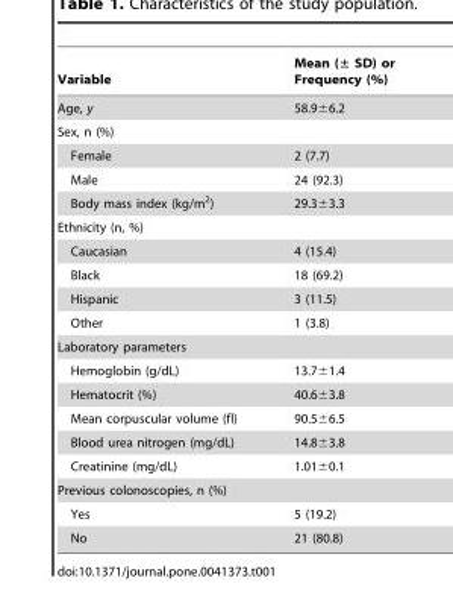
<table><thead><tr><td>Variable</td><td>Mean (± SD) or Frequency (%)</td></tr></thead><tbody><tr><td>Age, y</td><td>58.9±6.2</td></tr><tr><td colspan="2">Sex, n (%)</td></tr><tr><td>Female</td><td>2 (7.7)</td></tr><tr><td>Male</td><td>24 (92.3)</td></tr><tr><td>Body mass index (kg/m<sup>2</sup>)</td><td>29.3±3.3</td></tr><tr><td colspan="2">Ethnicity (n, %)</td></tr><tr><td>Caucasian</td><td>4 (15.4)</td></tr><tr><td>Black</td><td>18 (69.2)</td></tr><tr><td>Hispanic</td><td>3 (11.5)</td></tr><tr><td>Other</td><td>1 (3.8)</td></tr><tr><td colspan="2">Laboratory parameters</td></tr><tr><td>Hemoglobin (g/dL)</td><td>13.7±1.4</td></tr><tr><td>Hematocrit (%)</td><td>40.6±3.8</td></tr><tr><td>Mean corpuscular volume (fl)</td><td>90.5±6.5</td></tr><tr><td>Blood urea nitrogen (mg/dL)</td><td>14.8±3.8</td></tr><tr><td>Creatinine (mg/dL)</td><td>1.01±0.1</td></tr><tr><td colspan="2">Previous colonoscopies, n (%)</td></tr><tr><td>Yes</td><td>5 (19.2)</td></tr><tr><td>No</td><td>21 (80.8)</td></tr></tbody></table>